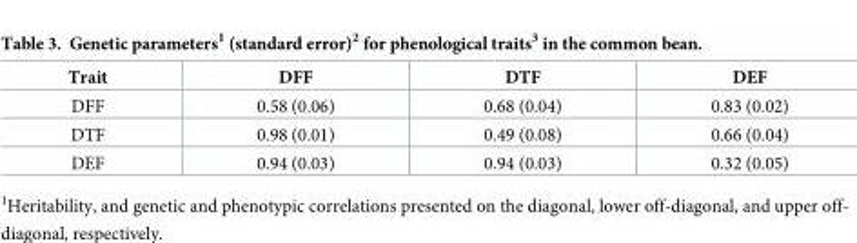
<table><tbody><tr><td>Trait</td><td>DFF</td><td>DTF</td><td>DEF</td></tr><tr><td>DFF</td><td>0.58 (0.06)</td><td>0.68 (0.04)</td><td>0.83 (0.02)</td></tr><tr><td>DTF</td><td>0.98 (0.01)</td><td>0.49 (0.08)</td><td>0.66 (0.04)</td></tr><tr><td>DEF</td><td>0.94 (0.03)</td><td>0.94 (0.03)</td><td>0.32 (0.05)</td></tr></tbody></table>